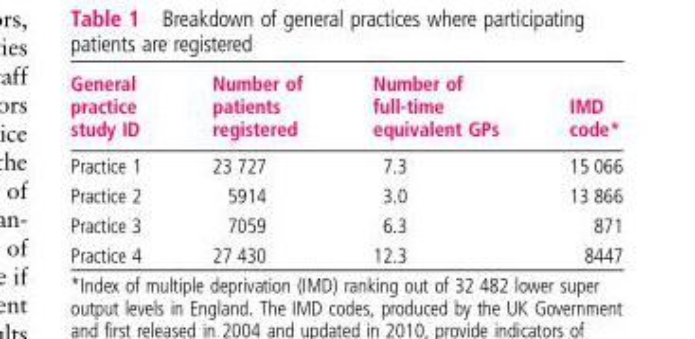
<table><thead><tr><td>General practice study ID</td><td>Number of patients registered</td><td>Number of full-time equivalent GPs</td><td>IMD code*</td></tr></thead><tbody><tr><td>Practice 1</td><td>23 727</td><td>7.3</td><td>15 066</td></tr><tr><td>Practice 2</td><td>5914</td><td>3.0</td><td>13 866</td></tr><tr><td>Practice 3</td><td>7059</td><td>6.3</td><td>871</td></tr><tr><td>Practice 4</td><td>27 430</td><td>12.3</td><td>8447</td></tr></tbody></table>